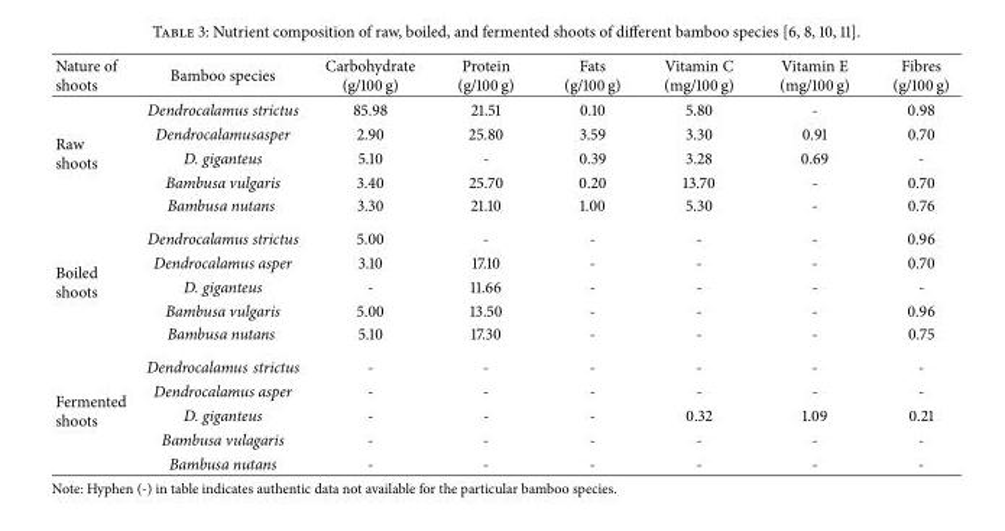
<table><thead><tr><td>Nature of shoots</td><td>Bamboo species</td><td>Carbohydrate (g/100 g)</td><td>Protein (g/100 g)</td><td>Fats (g/100 g)</td><td>Vitamin C (mg/100 g)</td><td>Vitamin E (mg/100 g)</td><td>Fibres (g/100 g)</td></tr></thead><tbody><tr><td rowspan="5">Raw shoots</td><td>Dendrocalamus strictus</td><td>85.98</td><td>21.51</td><td>0.10</td><td>5.80</td><td>-</td><td>0.98</td></tr><tr><td>Dendrocalamusasper</td><td>2.90</td><td>25.80</td><td>3.59</td><td>3.30</td><td>0.91</td><td>0.70</td></tr><tr><td>D. giganteus</td><td>5.10</td><td>-</td><td>0.39</td><td>3.28</td><td>0.69</td><td>-</td></tr><tr><td>Bambusa vulgaris</td><td>3.40</td><td>25.70</td><td>0.20</td><td>13.70</td><td>-</td><td>0.70</td></tr><tr><td>Bambusa nutans</td><td>3.30</td><td>21.10</td><td>1.00</td><td>5.30</td><td>-</td><td>0.76</td></tr><tr><td rowspan="5">Boiled shoots</td><td>Dendrocalamus strictus</td><td>5.00</td><td>-</td><td>-</td><td>-</td><td>-</td><td>0.96</td></tr><tr><td>Dendrocalamus asper</td><td>3.10</td><td>17.10</td><td>-</td><td>-</td><td>-</td><td>0.70</td></tr><tr><td>D. giganteus</td><td>-</td><td>11.66</td><td>-</td><td>-</td><td>-</td><td>-</td></tr><tr><td>Bambusa vulgaris</td><td>5.00</td><td>13.50</td><td>-</td><td>-</td><td>-</td><td>0.96</td></tr><tr><td>Bambusa nutans</td><td>5.10</td><td>17.30</td><td>-</td><td>-</td><td>-</td><td>0.75</td></tr><tr><td rowspan="5">Fermented shoots</td><td>Dendrocalamus strictus</td><td>-</td><td>-</td><td>-</td><td>-</td><td>-</td><td>-</td></tr><tr><td>Dendrocalamus asper</td><td>-</td><td>-</td><td>-</td><td>-</td><td>-</td><td>-</td></tr><tr><td>D. giganteus</td><td>-</td><td>-</td><td>-</td><td>0.32</td><td>1.09</td><td>0.21</td></tr><tr><td>Bambusa vulagaris</td><td>-</td><td>-</td><td>-</td><td>-</td><td>-</td><td>-</td></tr><tr><td>Bambusa nutans</td><td>-</td><td>-</td><td>-</td><td>-</td><td>-</td><td>-</td></tr></tbody></table>